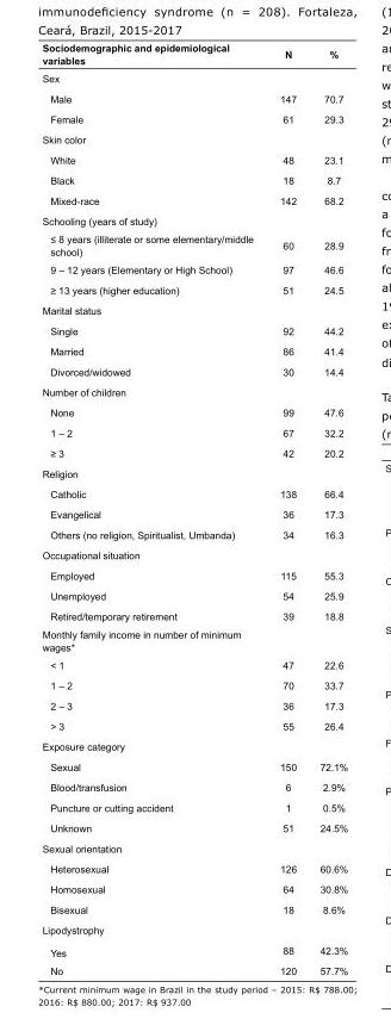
<table><tbody><tr><td>Sociodemographic and epidemiological variables</td><td>N</td><td>%</td></tr><tr><td colspan="3">Sex</td></tr><tr><td>Male</td><td>147</td><td>70.7</td></tr><tr><td>Female</td><td>61</td><td>29.3</td></tr><tr><td colspan="3">Skin color</td></tr><tr><td>White</td><td>48</td><td>23.1</td></tr><tr><td>Black</td><td>18</td><td>8.7</td></tr><tr><td>Mixed-race</td><td>142</td><td>68.2</td></tr><tr><td colspan="3">Schooling (years of study)</td></tr><tr><td>≤ 8 years (illiterate or some elementary/middle school)</td><td>60</td><td>28.9</td></tr><tr><td>9 – 12 years (Elementary or High School)</td><td>97</td><td>46.6</td></tr><tr><td>≥ 13 years (higher education)</td><td>51</td><td>24.5</td></tr><tr><td colspan="3">Marital status</td></tr><tr><td>Single</td><td>92</td><td>44.2</td></tr><tr><td>Married</td><td>86</td><td>41.4</td></tr><tr><td>Divorced/widowed</td><td>30</td><td>14.4</td></tr><tr><td colspan="3">Number of children</td></tr><tr><td>None</td><td>99</td><td>47.6</td></tr><tr><td>1 – 2</td><td>67</td><td>32.2</td></tr><tr><td>≥ 3</td><td>42</td><td>20.2</td></tr><tr><td colspan="3">Religion</td></tr><tr><td>Catholic</td><td>138</td><td>66.4</td></tr><tr><td>Evangelical</td><td>36</td><td>17.3</td></tr><tr><td>Others (no religion, Spiritualist, Umbanda)</td><td>34</td><td>16.3</td></tr><tr><td colspan="3">Occupational situation</td></tr><tr><td>Employed</td><td>115</td><td>55.3</td></tr><tr><td>Unemployed</td><td>54</td><td>25.9</td></tr><tr><td>Retired/temporary retirement</td><td>39</td><td>18.8</td></tr><tr><td colspan="3">Monthly family income in number of minimum wages*</td></tr><tr><td>&lt; 1</td><td>47</td><td>22.6</td></tr><tr><td>1 – 2</td><td>70</td><td>33.7</td></tr><tr><td>2 – 3</td><td>36</td><td>17.3</td></tr><tr><td>&gt; 3</td><td>55</td><td>26.4</td></tr><tr><td colspan="3">Exposure category</td></tr><tr><td>Sexual</td><td>150</td><td>72.1%</td></tr><tr><td>Blood/transfusion</td><td>6</td><td>2.9%</td></tr><tr><td>Puncture or cutting accident</td><td>1</td><td>0.5%</td></tr><tr><td>Unknown</td><td>51</td><td>24.5%</td></tr><tr><td colspan="3">Sexual orientation</td></tr><tr><td>Heterosexual</td><td>126</td><td>60.6%</td></tr><tr><td>Homosexual</td><td>64</td><td>30.8%</td></tr><tr><td>Bisexual</td><td>18</td><td>8.6%</td></tr><tr><td colspan="3">Lipodystrophy</td></tr><tr><td>Yes</td><td>88</td><td>42.3%</td></tr><tr><td>No</td><td>120</td><td>57.7%</td></tr></tbody></table>